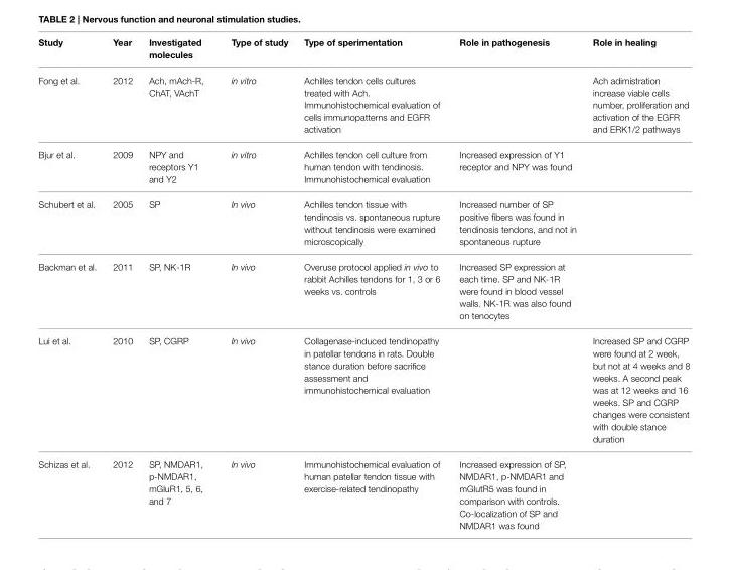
<table><thead><tr><td>Study</td><td>Year</td><td>Investigated molecules</td><td>Type of study</td><td>Type of sperimentation</td><td>Role in pathogenesis</td><td>Role in healing</td></tr></thead><tbody><tr><td>Fong et al.</td><td>2012</td><td>Ach, mAch-R, ChAT, VAchT</td><td>in vitro</td><td>Achilles tendon cells cultures treated with Ach. Immunohistochemical evaluation of cells immunopatterns and EGFR activation</td><td></td><td>Ach adimistration increase viable cells number, proliferation and activation of the EGFR and ERK1/2 pathways</td></tr><tr><td>Bjur et al.</td><td>2009</td><td>NPY and receptors Y1 and Y2</td><td>in vitro</td><td>Achilles tendon cell culture from human tendon with tendinosis. Immunohistochemical evaluation</td><td>Increased expression of Y1 receptor and NPY was found</td><td></td></tr><tr><td>Schubert et al.</td><td>2005</td><td>SP</td><td>In vivo</td><td>Achilles tendon tissue with tendinosis vs. spontaneous rupture without tendinosis were examined microscopically</td><td>Increased number of SP positive fibers was found in tendinosis tendons, and not in spontaneous rupture</td><td></td></tr><tr><td>Backman et al.</td><td>2011</td><td>SP, NK-1R</td><td>In vivo</td><td>Overuse protocol applied in vivo to rabbit Achilles tendons for 1, 3 or 6 weeks vs. controls</td><td>Increased SP expression at each time. SP and NK-1R were found in blood vessel walls. NK-1R was also found on tenocytes</td><td></td></tr><tr><td>Lui et al.</td><td>2010</td><td>SP, CGRP</td><td>In vivo</td><td>Collagenase-induced tendinopathy in patellar tendons in rats. Double stance duration before sacrifice assessment and immunohistochemical evaluation</td><td></td><td>Increased SP and CGRP were found at 2 week, but not at 4 weeks and 8 weeks. A second peak was at 12 weeks and 16 weeks. SP and CGRP changes were consistent with double stance duration</td></tr><tr><td>Schizas et al.</td><td>2012</td><td>SP, NMDAR1, p-NMDAR1, mGluR1, 5, 6, and 7</td><td>In vivo</td><td>Immunohistochemical evaluation of human patellar tendon tissue with exercise-related tendinopathy</td><td>Increased expression of SP, NMDAR1, p-NMDAR1 and mGlutR5 was found in comparison with controls. Co-localization of SP and NMDAR1 was found</td><td></td></tr></tbody></table>